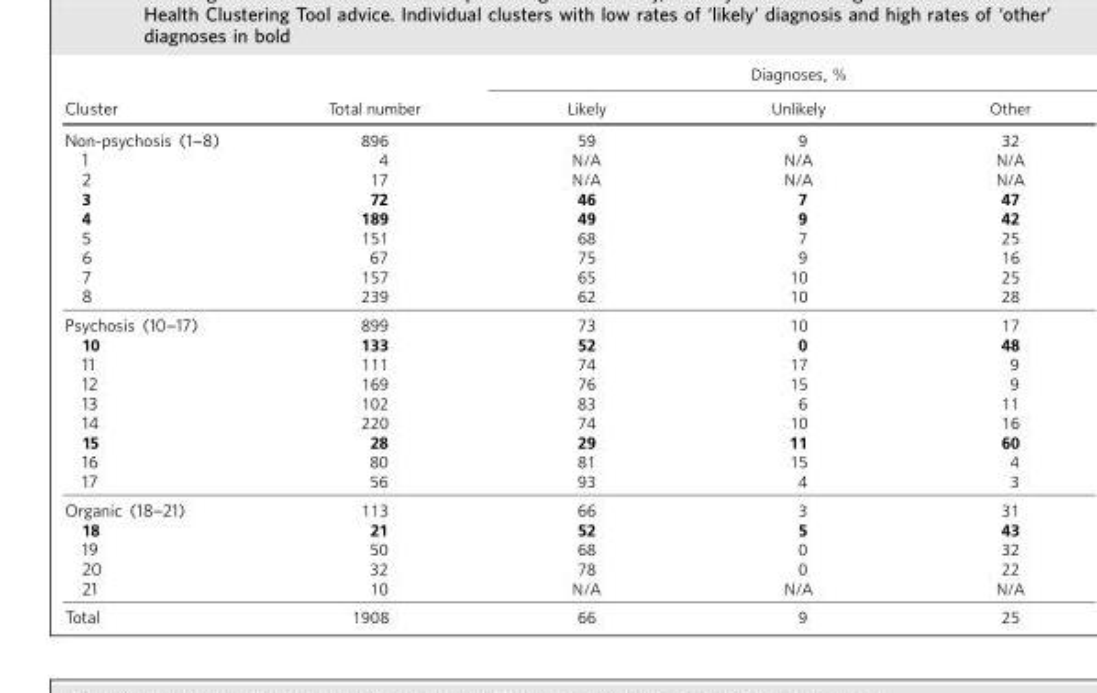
<table><thead><tr><td rowspan="2">Cluster</td><td rowspan="2">Total number</td><td colspan="3">Diagnoses, %</td></tr><tr><td>Likely</td><td>Unlikely</td><td>Other</td></tr></thead><tbody><tr><td>Non-psychosis (1-8)</td><td>896</td><td>59</td><td>9</td><td>32</td></tr><tr><td>1</td><td>4</td><td>N/A</td><td>N/A</td><td>N/A</td></tr><tr><td>2</td><td>17</td><td>N/A</td><td>N/A</td><td>N/A</td></tr><tr><td>3</td><td>72</td><td>46</td><td>7</td><td>47</td></tr><tr><td>4</td><td>189</td><td>49</td><td>9</td><td>42</td></tr><tr><td>5</td><td>151</td><td>68</td><td>7</td><td>25</td></tr><tr><td>6</td><td>67</td><td>75</td><td>9</td><td>16</td></tr><tr><td>7</td><td>157</td><td>65</td><td>10</td><td>25</td></tr><tr><td>8</td><td>239</td><td>62</td><td>10</td><td>28</td></tr><tr><td>Psychosis (10-17)</td><td>899</td><td>73</td><td>10</td><td>17</td></tr><tr><td>10</td><td>133</td><td>52</td><td>0</td><td>48</td></tr><tr><td>11</td><td>111</td><td>74</td><td>17</td><td>9</td></tr><tr><td>12</td><td>169</td><td>76</td><td>15</td><td>9</td></tr><tr><td>13</td><td>102</td><td>83</td><td>6</td><td>11</td></tr><tr><td>14</td><td>220</td><td>74</td><td>10</td><td>16</td></tr><tr><td>15</td><td>28</td><td>29</td><td>11</td><td>60</td></tr><tr><td>16</td><td>80</td><td>81</td><td>15</td><td>4</td></tr><tr><td>17</td><td>56</td><td>93</td><td>4</td><td>3</td></tr><tr><td>Organic (18-21)</td><td>113</td><td>66</td><td>3</td><td>31</td></tr><tr><td>18</td><td>21</td><td>52</td><td>5</td><td>43</td></tr><tr><td>19</td><td>50</td><td>68</td><td>0</td><td>32</td></tr><tr><td>20</td><td>32</td><td>78</td><td>0</td><td>22</td></tr><tr><td>21</td><td>10</td><td>N/A</td><td>N/A</td><td>N/A</td></tr><tr><td>Total</td><td>1908</td><td>66</td><td>9</td><td>25</td></tr></tbody></table>